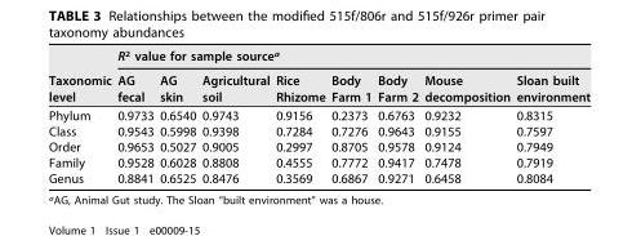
<table><thead><tr><td rowspan="2">Taxonomic level</td><td colspan="8">R<sup>2</sup> value for sample source<sup>a</sup></td></tr><tr><td>AG fecal</td><td>AG skin</td><td>Agricultural soil</td><td>Rice Rhizome</td><td>Body Farm 1</td><td>Body Farm 2</td><td>Mouse decomposition</td><td>Sloan built environment</td></tr></thead><tbody><tr><td>Phylum</td><td>0.9733</td><td>0.6540</td><td>0.9743</td><td>0.9156</td><td>0.2373</td><td>0.6763</td><td>0.9232</td><td>0.8315</td></tr><tr><td>Class</td><td>0.9543</td><td>0.5998</td><td>0.9398</td><td>0.7284</td><td>0.7276</td><td>0.9643</td><td>0.9155</td><td>0.7597</td></tr><tr><td>Order</td><td>0.9653</td><td>0.5027</td><td>0.9005</td><td>0.2997</td><td>0.8705</td><td>0.9578</td><td>0.9124</td><td>0.7949</td></tr><tr><td>Family</td><td>0.9528</td><td>0.6028</td><td>0.8808</td><td>0.4555</td><td>0.7772</td><td>0.9417</td><td>0.7478</td><td>0.7919</td></tr><tr><td>Genus</td><td>0.8841</td><td>0.6525</td><td>0.8476</td><td>0.3569</td><td>0.6867</td><td>0.9271</td><td>0.6458</td><td>0.8084</td></tr></tbody></table>